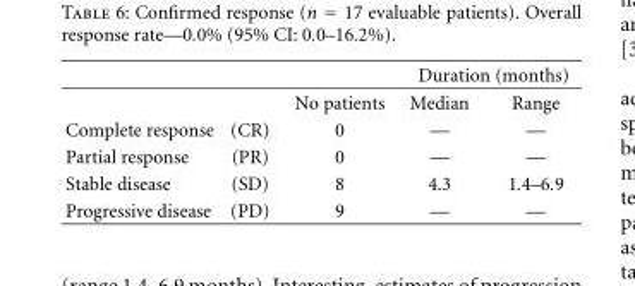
<table><thead><tr><td rowspan="2"></td><td rowspan="2"></td><td rowspan="2">No patients</td><td colspan="2">Duration (months)</td></tr><tr><td>Median</td><td>Range</td></tr></thead><tbody><tr><td>Complete response</td><td>(CR)</td><td>0</td><td>—</td><td>—</td></tr><tr><td>Partial response</td><td>(PR)</td><td>0</td><td>—</td><td>—</td></tr><tr><td>Stable disease</td><td>(SD)</td><td>8</td><td>4.3</td><td>1.4–6.9</td></tr><tr><td>Progressive disease</td><td>(PD)</td><td>9</td><td>—</td><td>—</td></tr></tbody></table>